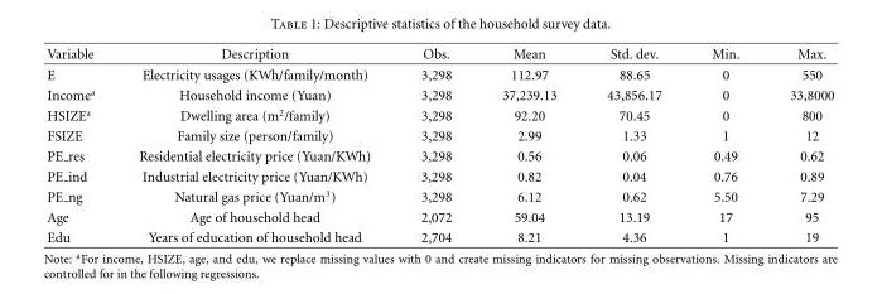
<table><thead><tr><td>Variable</td><td>Description</td><td>Obs.</td><td>Mean</td><td>Std. dev.</td><td>Min.</td><td>Max.</td></tr></thead><tbody><tr><td>E</td><td>Electricity usages (KWh/family/month)</td><td>3,298</td><td>112.97</td><td>88.65</td><td>0</td><td>550</td></tr><tr><td>Income<sup>a</sup></td><td>Household income (Yuan)</td><td>3,298</td><td>37,239.13</td><td>43,856.17</td><td>0</td><td>33,8000</td></tr><tr><td>HSIZE<sup>a</sup></td><td>Dwelling area (m<sup>2</sup>/family)</td><td>3,298</td><td>92.20</td><td>70.45</td><td>0</td><td>800</td></tr><tr><td>FSIZE</td><td>Family size (person/family)</td><td>3,298</td><td>2.99</td><td>1.33</td><td>1</td><td>12</td></tr><tr><td>PE res</td><td>Residential electricity price (Yuan/KWh)</td><td>3,298</td><td>0.56</td><td>0.06</td><td>0.49</td><td>0.62</td></tr><tr><td>PE ind</td><td>Industrial electricity price (Yuan/KWh)</td><td>3,298</td><td>0.82</td><td>0.04</td><td>0.76</td><td>0.89</td></tr><tr><td>PE ng</td><td>Natural gas price (Yuan/m<sup>3</sup>)</td><td>3,298</td><td>6.12</td><td>0.62</td><td>5.50</td><td>7.29</td></tr><tr><td>Age</td><td>Age of household head</td><td>2,072</td><td>59.04</td><td>13.19</td><td>17</td><td>95</td></tr><tr><td>Edu</td><td>Years of education of household head</td><td>2,704</td><td>8.21</td><td>4.36</td><td>1</td><td>19</td></tr></tbody></table>